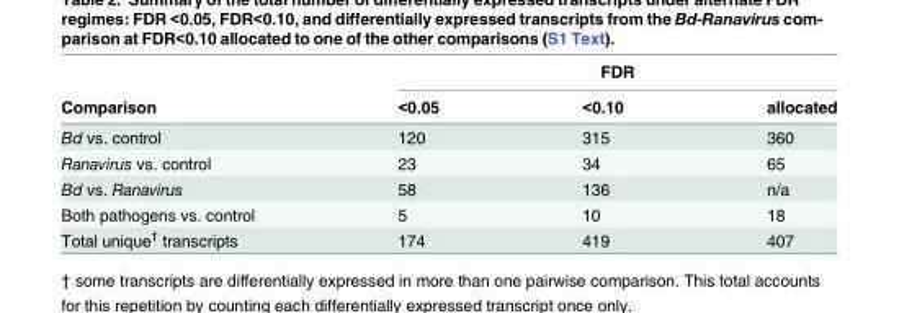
<table><thead><tr><td rowspan="2">Comparison</td><td colspan="3">FDR</td></tr><tr><td>&lt;0.05</td><td>&lt;0.10</td><td>allocated</td></tr></thead><tbody><tr><td>Bd vs. control</td><td>120</td><td>315</td><td>360</td></tr><tr><td>Ranavirus vs. control</td><td>23</td><td>34</td><td>65</td></tr><tr><td>Bd vs. Ranavirus</td><td>58</td><td>136</td><td>n/a</td></tr><tr><td>Both pathogens vs. control</td><td>5</td><td>10</td><td>18</td></tr><tr><td>Total unique<sup>†</sup> transcripts</td><td>174</td><td>419</td><td>407</td></tr></tbody></table>